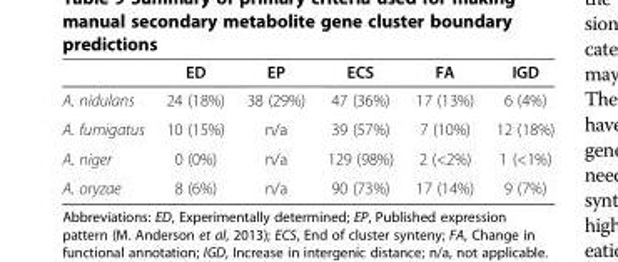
<table><thead><tr><td></td><td>ED</td><td>EP</td><td>ECS</td><td>FA</td><td>IGD</td></tr></thead><tbody><tr><td>A. nidulans</td><td>24 (18%)</td><td>38 (29%)</td><td>47 (36%)</td><td>17 (13%)</td><td>6 (4%)</td></tr><tr><td>A. fumigatus</td><td>10 (15%)</td><td>n/a</td><td>39 (57%)</td><td>7 (10%)</td><td>12 (18%)</td></tr><tr><td>A. niger</td><td>0 (0%)</td><td>n/a</td><td>129 (98%)</td><td>2 (&lt;2%)</td><td>1 (&lt;1%)</td></tr><tr><td>A. oryzae</td><td>8 (6%)</td><td>n/a</td><td>90 (73%)</td><td>17 (14%)</td><td>9 (7%)</td></tr></tbody></table>